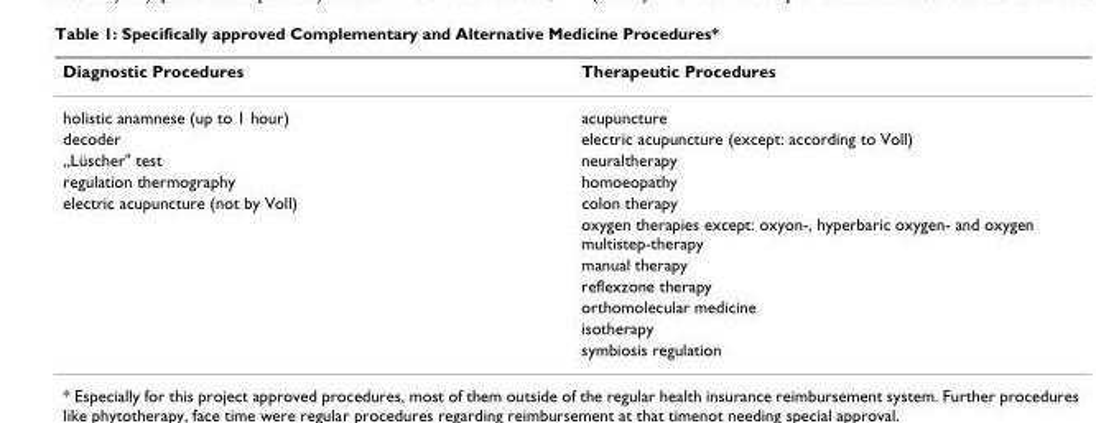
<table><thead><tr><td>Diagnostic Procedures</td><td>Therapeutic Procedures</td></tr></thead><tbody><tr><td>holistic anamnese (up to 1 hour)</td><td>acupuncture</td></tr><tr><td>decoder</td><td>electric acupuncture (except: according to Voll)</td></tr><tr><td>„Lüscher&quot; test</td><td>neuraltherapy</td></tr><tr><td>regulation thermography</td><td>homoeopathy</td></tr><tr><td rowspan="7">electric acupuncture (not by Voll)</td><td>colon therapy</td></tr><tr><td>oxygen therapies except: oxyon-, hyperbaric oxygen- and oxygen multistep-therapy</td></tr><tr><td>manual therapy</td></tr><tr><td>reflexzone therapy</td></tr><tr><td>orthomolecular medicine</td></tr><tr><td>isotherapy</td></tr><tr><td>symbiosis regulation</td></tr></tbody></table>